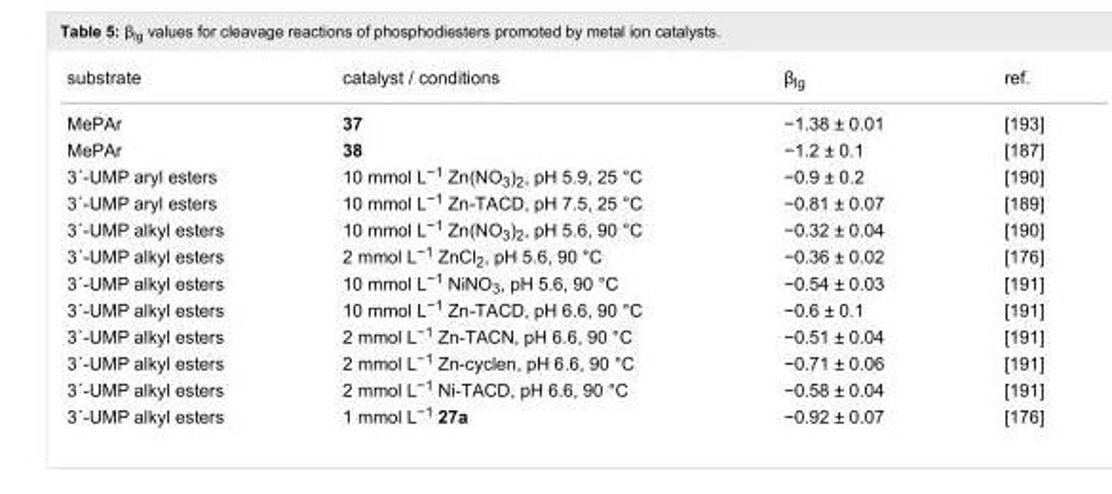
<table><tbody><tr><td>substrate</td><td>catalyst / conditions</td><td>β<sub>lg</sub></td><td>ref.</td></tr><tr><td>MePAr</td><td>37</td><td>−1.38 ± 0.01</td><td>[193]</td></tr><tr><td>MePAr</td><td>38</td><td>−1.2 ± 0.1</td><td>[187]</td></tr><tr><td>3´-UMP aryl esters</td><td>10 mmol L<sup>−1</sup> Zn(NO<sub>3</sub>)<sub>2</sub>, pH 5.9, 25 °C</td><td>−0.9 ± 0.2</td><td>[190]</td></tr><tr><td>3´-UMP aryl esters</td><td>10 mmol L<sup>−1</sup> Zn-TACD, pH 7.5, 25 °C</td><td>−0.81 ± 0.07</td><td>[189]</td></tr><tr><td>3´-UMP alkyl esters</td><td>10 mmol L<sup>−1</sup> Zn(NO<sub>3</sub>)<sub>2</sub>, pH 5.6, 90 °C</td><td>−0.32 ± 0.04</td><td>[190]</td></tr><tr><td>3´-UMP alkyl esters</td><td>2 mmol L<sup>−1</sup> ZnCl<sub>2</sub>, pH 5.6, 90 °C</td><td>−0.36 ± 0.02</td><td>[176]</td></tr><tr><td>3´-UMP alkyl esters</td><td>10 mmol L<sup>−1</sup> NiNO<sub>3</sub>, pH 5.6, 90 °C</td><td>−0.54 ± 0.03</td><td>[191]</td></tr><tr><td>3´-UMP alkyl esters</td><td>10 mmol L<sup>−1</sup> Zn-TACD, pH 6.6, 90 °C</td><td>−0.6 ± 0.1</td><td>[191]</td></tr><tr><td>3´-UMP alkyl esters</td><td>2 mmol L<sup>−1</sup> Zn-TACN, pH 6.6, 90 °C</td><td>−0.51 ± 0.04</td><td>[191]</td></tr><tr><td>3´-UMP alkyl esters</td><td>2 mmol L<sup>−1</sup> Zn-cyclen, pH 6.6, 90 °C</td><td>−0.71 ± 0.06</td><td>[191]</td></tr><tr><td>3´-UMP alkyl esters</td><td>2 mmol L<sup>−1</sup> Ni-TACD, pH 6.6, 90 °C</td><td>−0.58 ± 0.04</td><td>[191]</td></tr><tr><td>3´-UMP alkyl esters</td><td>1 mmol L<sup>−1</sup> 27a</td><td>−0.92 ± 0.07</td><td>[176]</td></tr></tbody></table>